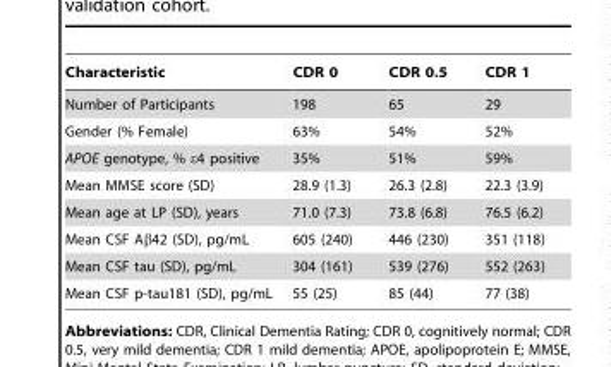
<table><thead><tr><td>Characteristic</td><td>CDR 0</td><td>CDR 0.5</td><td>CDR 1</td></tr></thead><tbody><tr><td>Number of Participants</td><td>198</td><td>65</td><td>29</td></tr><tr><td>Gender (% Female)</td><td>63%</td><td>54%</td><td>52%</td></tr><tr><td>APOE genotype, % ε4 positive</td><td>35%</td><td>51%</td><td>59%</td></tr><tr><td>Mean MMSE score (SD)</td><td>28.9 (1.3)</td><td>26.3 (2.8)</td><td>22.3 (3.9)</td></tr><tr><td>Mean age at LP (SD), years</td><td>71.0 (7.3)</td><td>73.8 (6.8)</td><td>76.5 (6.2)</td></tr><tr><td>Mean CSF Aβ42 (SD), pg/mL</td><td>605 (240)</td><td>446 (230)</td><td>351 (118)</td></tr><tr><td>Mean CSF tau (SD), pg/mL</td><td>304 (161)</td><td>539 (276)</td><td>552 (263)</td></tr><tr><td>Mean CSF p-tau181 (SD), pg/mL</td><td>55 (25)</td><td>85 (44)</td><td>77 (38)</td></tr></tbody></table>